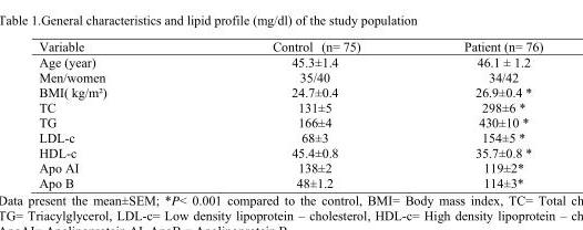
<table><thead><tr><td>Variable</td><td>Control (n= 75)</td><td>Patient (n= 76)</td></tr></thead><tbody><tr><td>Age (year)</td><td>45.3±1.4</td><td>46.1 ± 1.2</td></tr><tr><td>Men/women</td><td>35/40</td><td>34/42</td></tr><tr><td>BMI( kg/m²)</td><td>24.7±0.4</td><td>26.9±0.4 *</td></tr><tr><td>TC</td><td>131±5</td><td>298±6 *</td></tr><tr><td>TG</td><td>166±4</td><td>430±10 *</td></tr><tr><td>LDL-c</td><td>68±3</td><td>154±5 *</td></tr><tr><td>HDL-c</td><td>45.4±0.8</td><td>35.7±0.8 *</td></tr><tr><td>Apo AI</td><td>138±2</td><td>119±2*</td></tr><tr><td>Apo B</td><td>48±1.2</td><td>114±3*</td></tr></tbody></table>